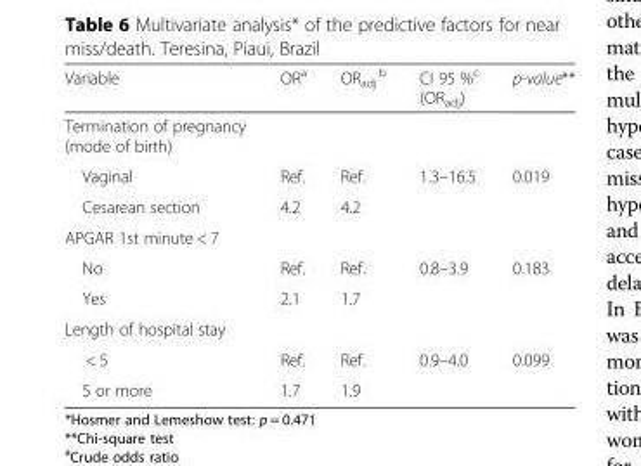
<table><thead><tr><td>Variable</td><td>OR<sup>a</sup></td><td>OR<sub>adj</sub> <sup>b</sup></td><td>CI 95 %<sup>c</sup> (OR<sub>adj</sub>)</td><td>p-value**</td></tr></thead><tbody><tr><td colspan="5">Termination of pregnancy (mode of birth)</td></tr><tr><td>Vaginal</td><td>Ref.</td><td>Ref.</td><td rowspan="2">1.3–16.5</td><td rowspan="2">0.019</td></tr><tr><td>Cesarean section</td><td>4.2</td><td>4.2</td></tr><tr><td colspan="5">APGAR 1st minute &lt; 7</td></tr><tr><td>No</td><td>Ref.</td><td>Ref.</td><td rowspan="2">0.8–3.9</td><td rowspan="2">0.183</td></tr><tr><td>Yes</td><td>2.1</td><td>1.7</td></tr><tr><td colspan="5">Length of hospital stay</td></tr><tr><td>&lt; 5</td><td>Ref.</td><td>Ref.</td><td rowspan="2">0.9–4.0</td><td rowspan="2">0.099</td></tr><tr><td>5 or more</td><td>1.7</td><td>1.9</td></tr></tbody></table>